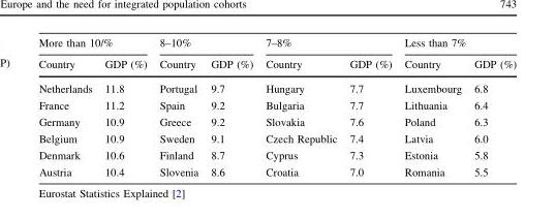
<table><thead><tr><td colspan="2">More than 10/%</td><td colspan="2">8–10%</td><td colspan="2">7–8%</td><td colspan="2">Less than 7%</td></tr><tr><td>Country</td><td>GDP (%)</td><td>Country</td><td>GDP (%)</td><td>Country</td><td>GDP (%)</td><td>Country</td><td>GDP (%)</td></tr></thead><tbody><tr><td>Netherlands</td><td>11.8</td><td>Portugal</td><td>9.7</td><td>Hungary</td><td>7.7</td><td>Luxembourg</td><td>6.8</td></tr><tr><td>France</td><td>11.2</td><td>Spain</td><td>9.2</td><td>Bulgaria</td><td>7.7</td><td>Lithuania</td><td>6.4</td></tr><tr><td>Germany</td><td>10.9</td><td>Greece</td><td>9.2</td><td>Slovakia</td><td>7.6</td><td>Poland</td><td>6.3</td></tr><tr><td>Belgium</td><td>10.9</td><td>Sweden</td><td>9.1</td><td>Czech Republic</td><td>7.4</td><td>Latvia</td><td>6.0</td></tr><tr><td>Denmark</td><td>10.6</td><td>Finland</td><td>8.7</td><td>Cyprus</td><td>7.3</td><td>Estonia</td><td>5.8</td></tr><tr><td>Austria</td><td>10.4</td><td>Slovenia</td><td>8.6</td><td>Croatia</td><td>7.0</td><td>Romania</td><td>5.5</td></tr></tbody></table>